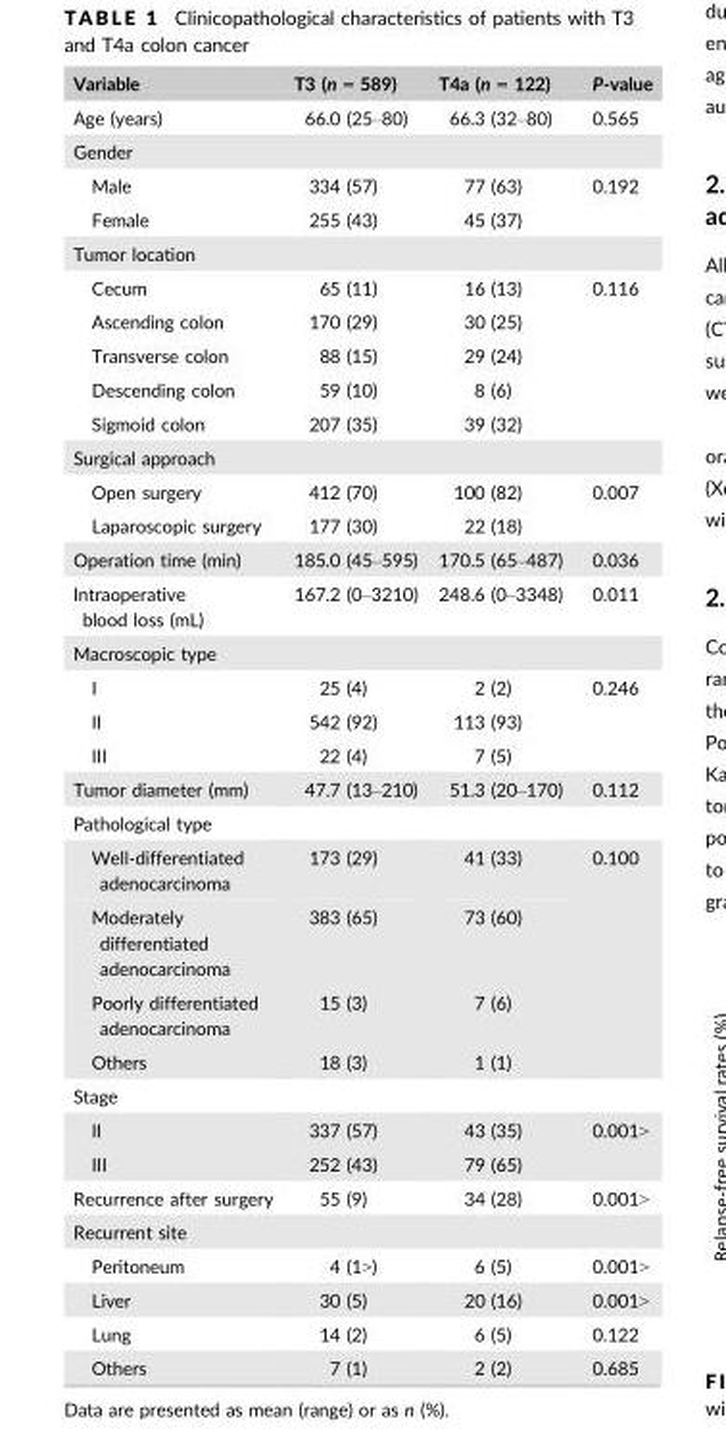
<table><thead><tr><td>Variable</td><td>T3 (n = 589)</td><td>T4a (n = 122)</td><td>P-value</td></tr></thead><tbody><tr><td>Age (years)</td><td>66.0 (25–80)</td><td>66.3 (32–80)</td><td>0.565</td></tr><tr><td colspan="4">Gender</td></tr><tr><td>Male</td><td>334 (57)</td><td>77 (63)</td><td rowspan="2">0.192</td></tr><tr><td>Female</td><td>255 (43)</td><td>45 (37)</td></tr><tr><td colspan="4">Tumor location</td></tr><tr><td>Cecum</td><td>65 (11)</td><td>16 (13)</td><td rowspan="5">0.116</td></tr><tr><td>Ascending colon</td><td>170 (29)</td><td>30 (25)</td></tr><tr><td>Transverse colon</td><td>88 (15)</td><td>29 (24)</td></tr><tr><td>Descending colon</td><td>59 (10)</td><td>8 (6)</td></tr><tr><td>Sigmoid colon</td><td>207 (35)</td><td>39 (32)</td></tr><tr><td colspan="4">Surgical approach</td></tr><tr><td>Open surgery</td><td>412 (70)</td><td>100 (82)</td><td rowspan="2">0.007</td></tr><tr><td>Laparoscopic surgery</td><td>177 (30)</td><td>22 (18)</td></tr><tr><td>Operation time (min)</td><td>185.0 (45–595)</td><td>170.5 (65–487)</td><td>0.036</td></tr><tr><td>Intraoperative blood loss (mL)</td><td>167.2 (0–3210)</td><td>248.6 (0–3348)</td><td>0.011</td></tr><tr><td colspan="4">Macroscopic type</td></tr><tr><td>I</td><td>25 (4)</td><td>2 (2)</td><td rowspan="3">0.246</td></tr><tr><td>II</td><td>542 (92)</td><td>113 (93)</td></tr><tr><td>III</td><td>22 (4)</td><td>7 (5)</td></tr><tr><td>Tumor diameter (mm)</td><td>47.7 (13–210)</td><td>51.3 (20–170)</td><td>0.112</td></tr><tr><td colspan="4">Pathological type</td></tr><tr><td>Well-differentiated adenocarcinoma</td><td>173 (29)</td><td>41 (33)</td><td rowspan="4">0.100</td></tr><tr><td>Moderately differentiated adenocarcinoma</td><td>383 (65)</td><td>73 (60)</td></tr><tr><td>Poorly differentiated adenocarcinoma</td><td>15 (3)</td><td>7 (6)</td></tr><tr><td>Others</td><td>18 (3)</td><td>1 (1)</td></tr><tr><td colspan="4">Stage</td></tr><tr><td>II</td><td>337 (57)</td><td>43 (35)</td><td rowspan="2">0.001&gt;</td></tr><tr><td>III</td><td>252 (43)</td><td>79 (65)</td></tr><tr><td>Recurrence after surgery</td><td>55 (9)</td><td>34 (28)</td><td>0.001&gt;</td></tr><tr><td colspan="4">Recurrent site</td></tr><tr><td>Peritoneum</td><td>4 (1&gt;)</td><td>6 (5)</td><td>0.001&gt;</td></tr><tr><td>Liver</td><td>30 (5)</td><td>20 (16)</td><td>0.001&gt;</td></tr><tr><td>Lung</td><td>14 (2)</td><td>6 (5)</td><td>0.122</td></tr><tr><td>Others</td><td>7 (1)</td><td>2 (2)</td><td>0.685</td></tr></tbody></table>